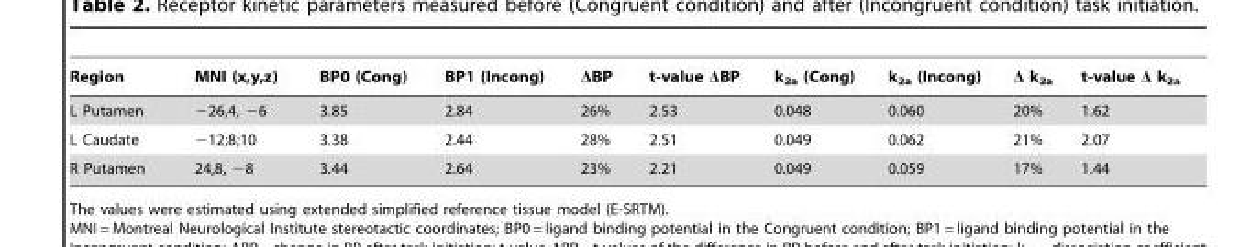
<table><thead><tr><td>Region</td><td>MNI (x,y,z)</td><td>BP0 (Cong)</td><td>BP1 (Incong)</td><td>ΔBP</td><td>t-value ΔBP</td><td>k<sub>2a</sub> (Cong)</td><td>k<sub>2a</sub> (Incong)</td><td>Δ k<sub>2a</sub></td><td>t-value Δ k<sub>2a</sub></td></tr></thead><tbody><tr><td>L Putamen</td><td>−26,4, −6</td><td>3.85</td><td>2.84</td><td>26%</td><td>2.53</td><td>0.048</td><td>0.060</td><td>20%</td><td>1.62</td></tr><tr><td>L Caudate</td><td>−12;8;10</td><td>3.38</td><td>2.44</td><td>28%</td><td>2.51</td><td>0.049</td><td>0.062</td><td>21%</td><td>2.07</td></tr><tr><td>R Putamen</td><td>24,8, −8</td><td>3.44</td><td>2.64</td><td>23%</td><td>2.21</td><td>0.049</td><td>0.059</td><td>17%</td><td>1.44</td></tr></tbody></table>